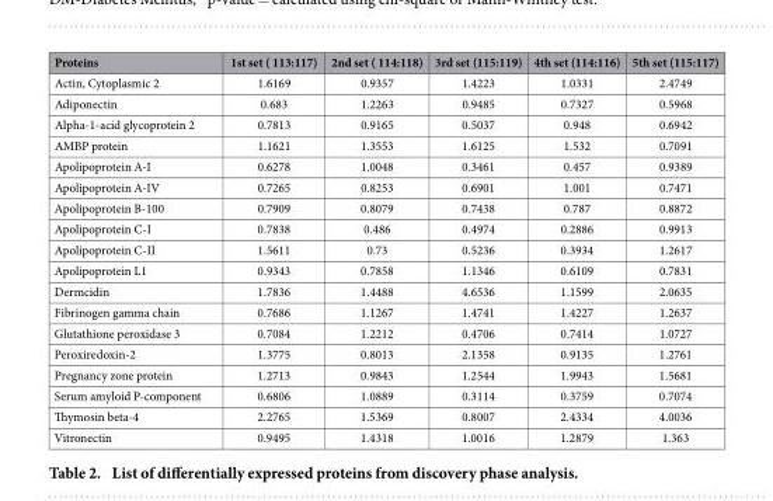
<table><thead><tr><td>Proteins</td><td>1st set ( 113:117)</td><td>2nd set ( 114:118)</td><td>3rd set (115:119)</td><td>4th set (114:116)</td><td>5th set (115:117)</td></tr></thead><tbody><tr><td>Actin, Cytoplasmic 2</td><td>1.6169</td><td>0.9357</td><td>1.4223</td><td>1.0331</td><td>2.4749</td></tr><tr><td>Adiponectin</td><td>0.683</td><td>1.2263</td><td>0.9485</td><td>0.7327</td><td>0.5968</td></tr><tr><td>Alpha-1-acid glycoprotein 2</td><td>0.7813</td><td>0.9165</td><td>0.5037</td><td>0.948</td><td>0.6942</td></tr><tr><td>AMBP protein</td><td>1.1621</td><td>1.3553</td><td>1.6125</td><td>1.532</td><td>0.7091</td></tr><tr><td>Apolipoprotein A-I</td><td>0.6278</td><td>1.0048</td><td>0.3461</td><td>0.457</td><td>0.9389</td></tr><tr><td>Apolipoprotein A-IV</td><td>0.7265</td><td>0.8253</td><td>0.6901</td><td>1.001</td><td>0.7471</td></tr><tr><td>Apolipoprotein B-100</td><td>0.7909</td><td>0.8079</td><td>0.7438</td><td>0.787</td><td>0.8872</td></tr><tr><td>Apolipoprotein C-I</td><td>0.7838</td><td>0.486</td><td>0.4974</td><td>0.2886</td><td>0.9913</td></tr><tr><td>Apolipoprotein C-II</td><td>1.5611</td><td>0.73</td><td>0.5236</td><td>0.3934</td><td>1.2617</td></tr><tr><td>Apolipoprotein L1</td><td>0.9343</td><td>0.7858</td><td>1.1346</td><td>0.6109</td><td>0.7831</td></tr><tr><td>Dermcidin</td><td>1.7836</td><td>1.4488</td><td>4.6536</td><td>1.1599</td><td>2.0635</td></tr><tr><td>Fibrinogen gamma chain</td><td>0.7686</td><td>1.1267</td><td>1.4741</td><td>1.4227</td><td>1.2637</td></tr><tr><td>Glutathione peroxidase 3</td><td>0.7084</td><td>1.2212</td><td>0.4706</td><td>0.7414</td><td>1.0727</td></tr><tr><td>Peroxiredoxin-2</td><td>1.3775</td><td>0.8013</td><td>2.1358</td><td>0.9135</td><td>1.2761</td></tr><tr><td>Pregnancy zone protein</td><td>1.2713</td><td>0.9843</td><td>1.2544</td><td>1.9943</td><td>1.5681</td></tr><tr><td>Serum amyloid P-component</td><td>0.6806</td><td>1.0889</td><td>0.3114</td><td>0.3759</td><td>0.7074</td></tr><tr><td>Thymosin beta-4</td><td>2.2765</td><td>1.5369</td><td>0.8007</td><td>2.4334</td><td>4.0036</td></tr><tr><td>Vitronectin</td><td>0.9495</td><td>1.4318</td><td>1.0016</td><td>1.2879</td><td>1.363</td></tr></tbody></table>